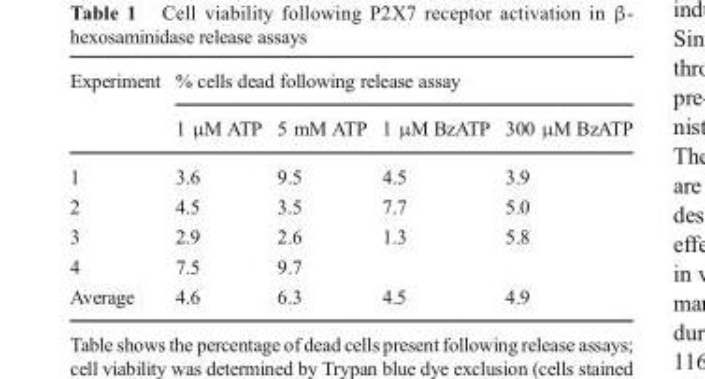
<table><thead><tr><td rowspan="2">Experiment</td><td colspan="4">% cells dead following release assay</td></tr><tr><td>1 μM ATP</td><td>5 mM ATP</td><td>1 μM BzATP</td><td>300 μM BzATP</td></tr></thead><tbody><tr><td>1</td><td>3.6</td><td>9.5</td><td>4.5</td><td>3.9</td></tr><tr><td>2</td><td>4.5</td><td>3.5</td><td>7.7</td><td>5.0</td></tr><tr><td>3</td><td>2.9</td><td>2.6</td><td>1.3</td><td>5.8</td></tr><tr><td>4</td><td>7.5</td><td>9.7</td><td></td><td></td></tr><tr><td>Average</td><td>4.6</td><td>6.3</td><td>4.5</td><td>4.9</td></tr></tbody></table>